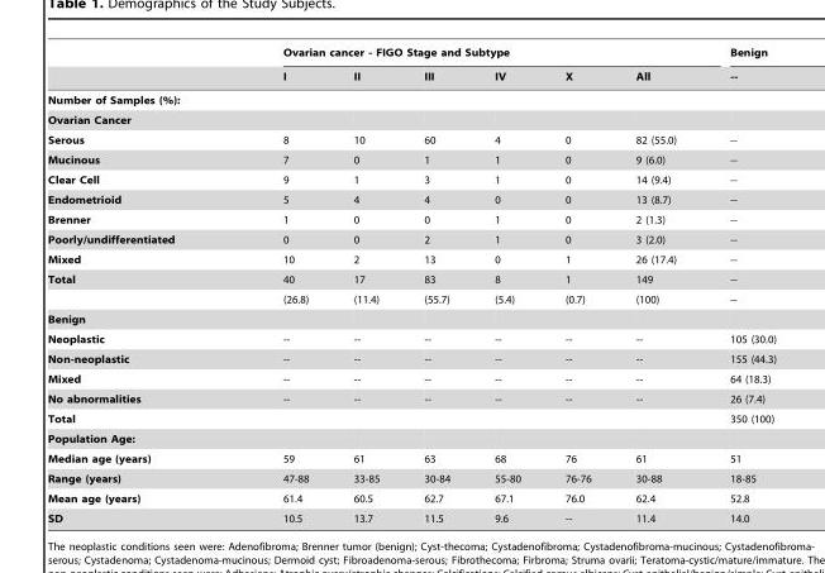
<table><thead><tr><td rowspan="2"></td><td colspan="6">Ovarian cancer - FIGO Stage and Subtype</td><td rowspan="2">Benign --</td></tr><tr><td>I</td><td>II</td><td>III</td><td>IV</td><td>X</td><td>All</td></tr></thead><tbody><tr><td colspan="8">Number of Samples (%):</td></tr><tr><td colspan="8">Ovarian Cancer</td></tr><tr><td>Serous</td><td>8</td><td>10</td><td>60</td><td>4</td><td>0</td><td>82 (55.0)</td><td>--</td></tr><tr><td>Mucinous</td><td>7</td><td>0</td><td>1</td><td>1</td><td>0</td><td>9 (6.0)</td><td>--</td></tr><tr><td>Clear Cell</td><td>9</td><td>1</td><td>3</td><td>1</td><td>0</td><td>14 (9.4)</td><td>--</td></tr><tr><td>Endometrioid</td><td>5</td><td>4</td><td>4</td><td>0</td><td>0</td><td>13 (8.7)</td><td>--</td></tr><tr><td>Brenner</td><td>1</td><td>0</td><td>0</td><td>1</td><td>0</td><td>2 (1.3)</td><td>--</td></tr><tr><td>Poorly/undifferentiated</td><td>0</td><td>0</td><td>2</td><td>1</td><td>0</td><td>3 (2.0)</td><td>--</td></tr><tr><td>Mixed</td><td>10</td><td>2</td><td>13</td><td>0</td><td>1</td><td>26 (17.4)</td><td>--</td></tr><tr><td rowspan="2">Total</td><td>40</td><td>17</td><td>83</td><td>8</td><td>1</td><td>149</td><td>--</td></tr><tr><td>(26.8)</td><td>(11.4)</td><td>(55.7)</td><td>(5.4)</td><td>(0.7)</td><td>(100)</td><td>--</td></tr><tr><td colspan="8">Benign</td></tr><tr><td>Neoplastic</td><td>--</td><td>--</td><td>--</td><td>--</td><td>--</td><td>--</td><td>105 (30.0)</td></tr><tr><td>Non-neoplastic</td><td>--</td><td>--</td><td>--</td><td>--</td><td>--</td><td>--</td><td>155 (44.3)</td></tr><tr><td>Mixed</td><td>--</td><td>--</td><td>--</td><td>--</td><td>--</td><td>--</td><td>64 (18.3)</td></tr><tr><td>No abnormalities</td><td>--</td><td>--</td><td>--</td><td>--</td><td>--</td><td>--</td><td>26 (7.4)</td></tr><tr><td>Total</td><td></td><td></td><td></td><td></td><td></td><td></td><td>350 (100)</td></tr><tr><td colspan="8">Population Age:</td></tr><tr><td>Median age (years)</td><td>59</td><td>61</td><td>63</td><td>68</td><td>76</td><td>61</td><td>51</td></tr><tr><td>Range (years)</td><td>47-88</td><td>33-85</td><td>30-84</td><td>55-80</td><td>76-76</td><td>30-88</td><td>18-85</td></tr><tr><td>Mean age (years)</td><td>61.4</td><td>60.5</td><td>62.7</td><td>67.1</td><td>76.0</td><td>62.4</td><td>52.8</td></tr><tr><td>SD</td><td>10.5</td><td>13.7</td><td>11.5</td><td>9.6</td><td>--</td><td>11.4</td><td>14.0</td></tr></tbody></table>